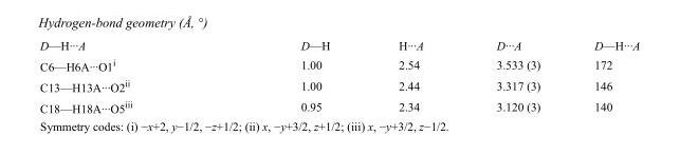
<table><tbody><tr><td>D—H···A</td><td>D—H</td><td>H···A</td><td>D···A</td><td>D—H···A</td></tr><tr><td>C6—H6A···O1<sup>i</sup></td><td>1.00</td><td>2.54</td><td>3.533 (3)</td><td>172</td></tr><tr><td>C13—H13A···O2<sup>ii</sup></td><td>1.00</td><td>2.44</td><td>3.317 (3)</td><td>146</td></tr><tr><td>C18—H18A···O5<sup>iii</sup></td><td>0.95</td><td>2.34</td><td>3.120 (3)</td><td>140</td></tr></tbody></table>